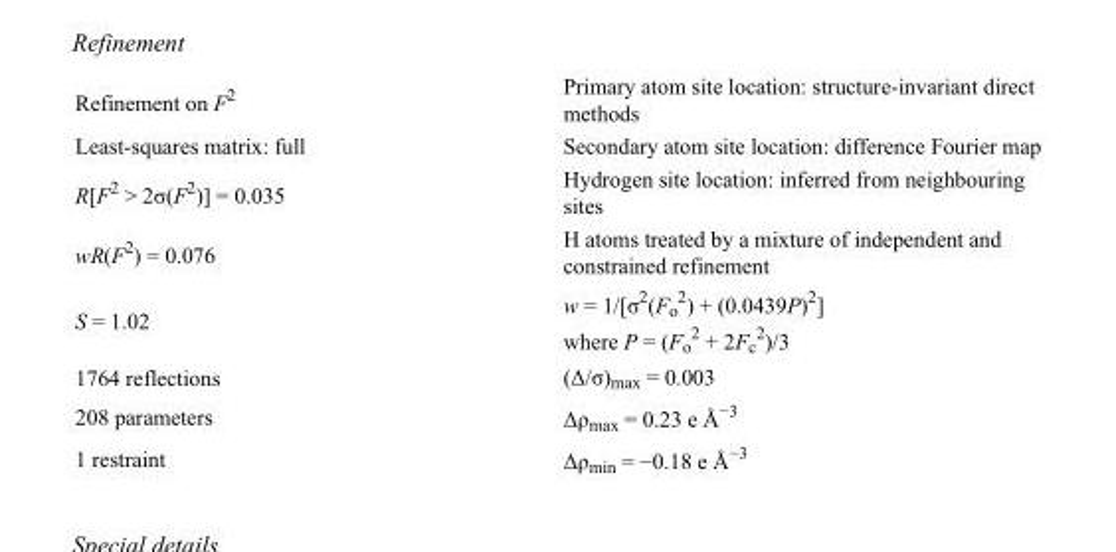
<table><tbody><tr><td>Refinement on F<sup>2</sup></td><td>Primary atom site location: structure-invariant direct methods</td></tr><tr><td>Least-squares matrix: full</td><td>Secondary atom site location: difference Fourier map</td></tr><tr><td>R[F<sup>2</sup> &gt; 2σ(F<sup>2</sup>)] = 0.035</td><td>Hydrogen site location: inferred from neighbouring sites</td></tr><tr><td>wR(F<sup>2</sup>) = 0.076</td><td>H atoms treated by a mixture of independent and constrained refinement</td></tr><tr><td>S = 1.02</td><td>w = 1/[σ<sup>2</sup>(F<sub>o</sub> <sup>2</sup>) + (0.0439P)<sup>2</sup>] where P = (F<sub>o</sub> <sup>2</sup> + 2F<sub>c</sub> <sup>2</sup>)/3</td></tr><tr><td>1764 reflections</td><td>(Δ/σ)<sub>max</sub> = 0.003</td></tr><tr><td>208 parameters</td><td>Δρ<sub>max</sub> = 0.23 e Å<sup>−3</sup></td></tr><tr><td>1 restraint</td><td>Δρ<sub>min</sub> = −0.18 e Å<sup>−3</sup></td></tr></tbody></table>